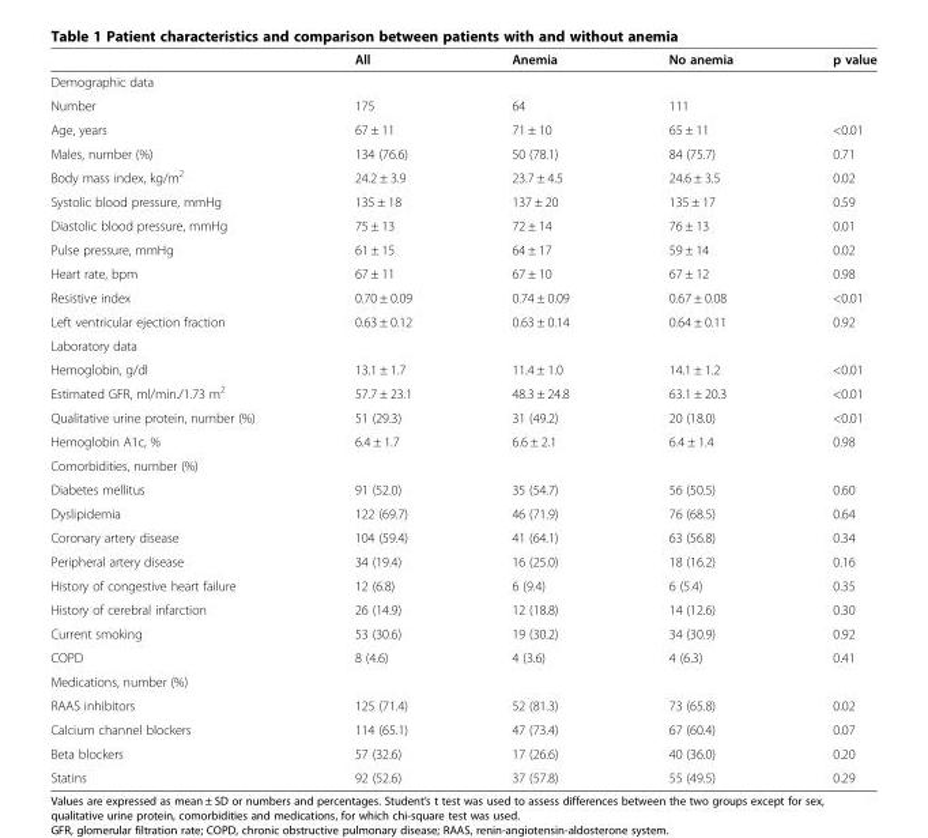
<table><thead><tr><td></td><td>All</td><td>Anemia</td><td>No anemia</td><td>p value</td></tr></thead><tbody><tr><td colspan="5">Demographic data</td></tr><tr><td>Number</td><td>175</td><td>64</td><td>111</td><td></td></tr><tr><td>Age, years</td><td>67 ± 11</td><td>71 ± 10</td><td>65 ± 11</td><td>&lt;0.01</td></tr><tr><td>Males, number (%)</td><td>134 (76.6)</td><td>50 (78.1)</td><td>84 (75.7)</td><td>0.71</td></tr><tr><td>Body mass index, kg/m<sup>2</sup></td><td>24.2 ± 3.9</td><td>23.7 ± 4.5</td><td>24.6 ± 3.5</td><td>0.02</td></tr><tr><td>Systolic blood pressure, mmHg</td><td>135 ± 18</td><td>137 ± 20</td><td>135 ± 17</td><td>0.59</td></tr><tr><td>Diastolic blood pressure, mmHg</td><td>75 ± 13</td><td>72 ± 14</td><td>76 ± 13</td><td>0.01</td></tr><tr><td>Pulse pressure, mmHg</td><td>61 ± 15</td><td>64 ± 17</td><td>59 ± 14</td><td>0.02</td></tr><tr><td>Heart rate, bpm</td><td>67 ± 11</td><td>67 ± 10</td><td>67 ± 12</td><td>0.98</td></tr><tr><td>Resistive index</td><td>0.70 ± 0.09</td><td>0.74 ± 0.09</td><td>0.67 ± 0.08</td><td>&lt;0.01</td></tr><tr><td>Left ventricular ejection fraction</td><td>0.63 ± 0.12</td><td>0.63 ± 0.14</td><td>0.64 ± 0.11</td><td>0.92</td></tr><tr><td colspan="5">Laboratory data</td></tr><tr><td>Hemoglobin, g/dl</td><td>13.1 ± 1.7</td><td>11.4 ± 1.0</td><td>14.1 ± 1.2</td><td>&lt;0.01</td></tr><tr><td>Estimated GFR, ml/min./1.73 m<sup>2</sup></td><td>57.7 ± 23.1</td><td>48.3 ± 24.8</td><td>63.1 ± 20.3</td><td>&lt;0.01</td></tr><tr><td>Qualitative urine protein, number (%)</td><td>51 (29.3)</td><td>31 (49.2)</td><td>20 (18.0)</td><td>&lt;0.01</td></tr><tr><td>Hemoglobin A1c, %</td><td>6.4 ± 1.7</td><td>6.6 ± 2.1</td><td>6.4 ± 1.4</td><td>0.98</td></tr><tr><td colspan="5">Comorbidities, number (%)</td></tr><tr><td>Diabetes mellitus</td><td>91 (52.0)</td><td>35 (54.7)</td><td>56 (50.5)</td><td>0.60</td></tr><tr><td>Dyslipidemia</td><td>122 (69.7)</td><td>46 (71.9)</td><td>76 (68.5)</td><td>0.64</td></tr><tr><td>Coronary artery disease</td><td>104 (59.4)</td><td>41 (64.1)</td><td>63 (56.8)</td><td>0.34</td></tr><tr><td>Peripheral artery disease</td><td>34 (19.4)</td><td>16 (25.0)</td><td>18 (16.2)</td><td>0.16</td></tr><tr><td>History of congestive heart failure</td><td>12 (6.8)</td><td>6 (9.4)</td><td>6 (5.4)</td><td>0.35</td></tr><tr><td>History of cerebral infarction</td><td>26 (14.9)</td><td>12 (18.8)</td><td>14 (12.6)</td><td>0.30</td></tr><tr><td>Current smoking</td><td>53 (30.6)</td><td>19 (30.2)</td><td>34 (30.9)</td><td>0.92</td></tr><tr><td>COPD</td><td>8 (4.6)</td><td>4 (3.6)</td><td>4 (6.3)</td><td>0.41</td></tr><tr><td colspan="5">Medications, number (%)</td></tr><tr><td>RAAS inhibitors</td><td>125 (71.4)</td><td>52 (81.3)</td><td>73 (65.8)</td><td>0.02</td></tr><tr><td>Calcium channel blockers</td><td>114 (65.1)</td><td>47 (73.4)</td><td>67 (60.4)</td><td>0.07</td></tr><tr><td>Beta blockers</td><td>57 (32.6)</td><td>17 (26.6)</td><td>40 (36.0)</td><td>0.20</td></tr><tr><td>Statins</td><td>92 (52.6)</td><td>37 (57.8)</td><td>55 (49.5)</td><td>0.29</td></tr></tbody></table>